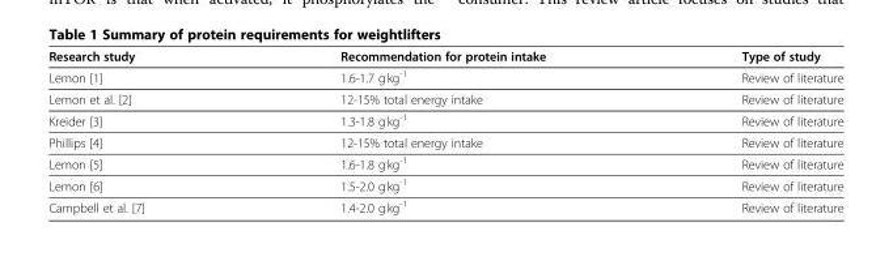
<table><thead><tr><td>Research study</td><td>Recommendation for protein intake</td><td>Type of study</td></tr></thead><tbody><tr><td>Lemon [1]</td><td>1.6-1.7 g<sup>.</sup>kg<sup>-1</sup></td><td>Review of literature</td></tr><tr><td>Lemon et al. [2]</td><td>12-15% total energy intake</td><td>Review of literature</td></tr><tr><td>Kreider [3]</td><td>1.3-1.8 g<sup>.</sup>kg<sup>-1</sup></td><td>Review of literature</td></tr><tr><td>Phillips [4]</td><td>12-15% total energy intake</td><td>Review of literature</td></tr><tr><td>Lemon [5]</td><td>1.6-1.8 g<sup>.</sup>kg<sup>-1</sup></td><td>Review of literature</td></tr><tr><td>Lemon [6]</td><td>1.5-2.0 g<sup>.</sup>kg<sup>-1</sup></td><td>Review of literature</td></tr><tr><td>Campbell et al. [7]</td><td>1.4-2.0 g<sup>.</sup>kg<sup>-1</sup></td><td>Review of literature</td></tr></tbody></table>